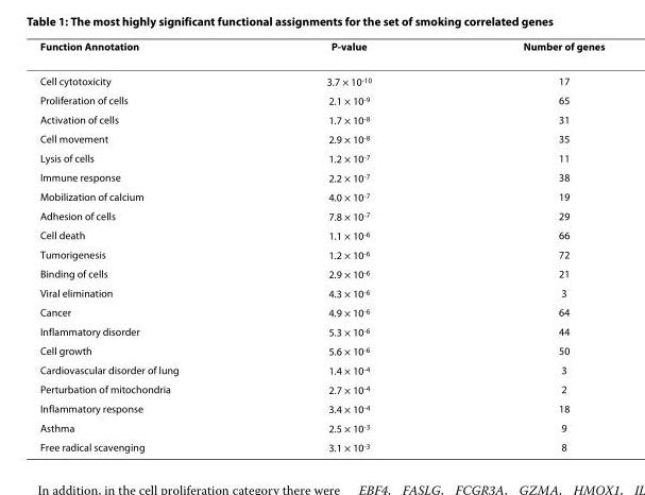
<table><thead><tr><td>Function Annotation</td><td>P-value</td><td>Number of genes</td></tr></thead><tbody><tr><td>Cell cytotoxicity</td><td>3.7 × 10<sup>-10</sup></td><td>17</td></tr><tr><td>Proliferation of cells</td><td>2.1 × 10<sup>-9</sup></td><td>65</td></tr><tr><td>Activation of cells</td><td>1.7 × 10<sup>-8</sup></td><td>31</td></tr><tr><td>Cell movement</td><td>2.9 × 10<sup>-8</sup></td><td>35</td></tr><tr><td>Lysis of cells</td><td>1.2 × 10<sup>-7</sup></td><td>11</td></tr><tr><td>Immune response</td><td>2.2 × 10<sup>-7</sup></td><td>38</td></tr><tr><td>Mobilization of calcium</td><td>4.0 × 10<sup>-7</sup></td><td>19</td></tr><tr><td>Adhesion of cells</td><td>7.8 × 10<sup>-7</sup></td><td>29</td></tr><tr><td>Cell death</td><td>1.1 × 10<sup>-6</sup></td><td>66</td></tr><tr><td>Tumorigenesis</td><td>1.2 × 10<sup>-6</sup></td><td>72</td></tr><tr><td>Binding of cells</td><td>2.9 × 10<sup>-6</sup></td><td>21</td></tr><tr><td>Viral elimination</td><td>4.3 × 10<sup>-6</sup></td><td>3</td></tr><tr><td>Cancer</td><td>4.9 × 10<sup>-6</sup></td><td>64</td></tr><tr><td>Inflammatory disorder</td><td>5.3 × 10<sup>-6</sup></td><td>44</td></tr><tr><td>Cell growth</td><td>5.6 × 10<sup>-6</sup></td><td>50</td></tr><tr><td>Cardiovascular disorder of lung</td><td>1.4 × 10<sup>-4</sup></td><td>3</td></tr><tr><td>Perturbation of mitochondria</td><td>2.7 × 10<sup>-4</sup></td><td>2</td></tr><tr><td>Inflammatory response</td><td>3.4 × 10<sup>-4</sup></td><td>18</td></tr><tr><td>Asthma</td><td>2.5 × 10<sup>-3</sup></td><td>9</td></tr><tr><td>Free radical scavenging</td><td>3.1 × 10<sup>-3</sup></td><td>8</td></tr></tbody></table>